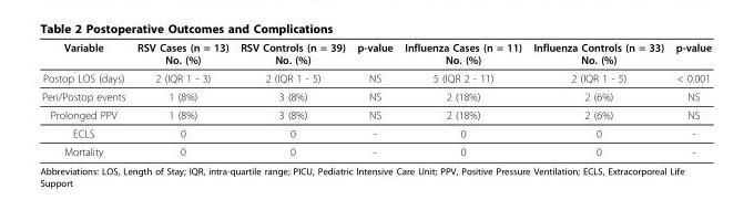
<table><thead><tr><td>Variable</td><td>RSV Cases (n = 13) No. (%)</td><td>RSV Controls (n = 39) No. (%)</td><td>p-value</td><td>Influenza Cases (n = 11) No. (%)</td><td>Influenza Controls (n = 33) No. (%)</td><td>p-value</td></tr></thead><tbody><tr><td>Postop LOS (days)</td><td>2 (IQR 1 - 3)</td><td>2 (IQR 1 - 5)</td><td>NS</td><td>5 (IQR 2 - 11)</td><td>2 (IQR 1 - 5)</td><td>&lt; 0.001</td></tr><tr><td>Peri/Postop events</td><td>1 (8%)</td><td>3 (8%)</td><td>NS</td><td>2 (18%)</td><td>2 (6%)</td><td>NS</td></tr><tr><td>Prolonged PPV</td><td>1 (8%)</td><td>3 (8%)</td><td>NS</td><td>2 (18%)</td><td>2 (6%)</td><td>NS</td></tr><tr><td>ECLS</td><td>0</td><td>0</td><td>-</td><td>0</td><td>0</td><td>-</td></tr><tr><td>Mortality</td><td>0</td><td>0</td><td>-</td><td>0</td><td>0</td><td>-</td></tr></tbody></table>